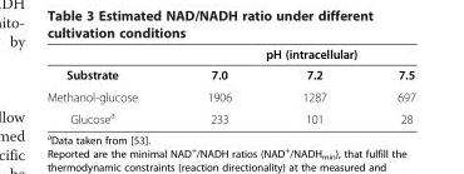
<table><thead><tr><td rowspan="2">Substrate</td><td colspan="3">pH (intracellular)</td></tr><tr><td>7.0</td><td>7.2</td><td>7.5</td></tr></thead><tbody><tr><td>Methanol-glucose</td><td>1906</td><td>1287</td><td>697</td></tr><tr><td>Glucose<sup>a</sup></td><td>233</td><td>101</td><td>28</td></tr></tbody></table>